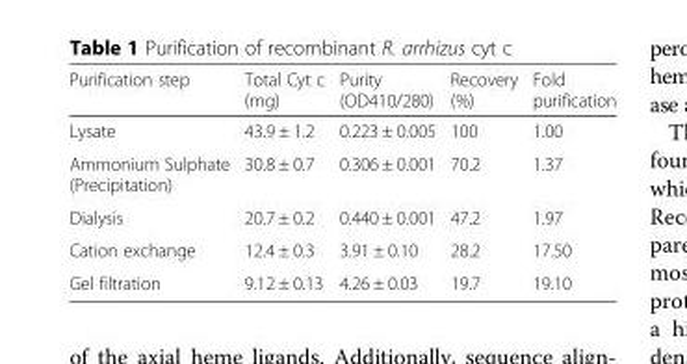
<table><thead><tr><td>Purification step</td><td>Total Cyt c (mg)</td><td>Purity (OD410/280)</td><td>Recovery (%)</td><td>Fold purification</td></tr></thead><tbody><tr><td>Lysate</td><td>43.9 ± 1.2</td><td>0.223 ± 0.005</td><td>100</td><td>1.00</td></tr><tr><td>Ammonium Sulphate (Precipitation)</td><td>30.8 ± 0.7</td><td>0.306 ± 0.001</td><td>70.2</td><td>1.37</td></tr><tr><td>Dialysis</td><td>20.7 ± 0.2</td><td>0.440 ± 0.001</td><td>47.2</td><td>1.97</td></tr><tr><td>Cation exchange</td><td>12.4 ± 0.3</td><td>3.91 ± 0.10</td><td>28.2</td><td>17.50</td></tr><tr><td>Gel filtration</td><td>9.12 ± 0.13</td><td>4.26 ± 0.03</td><td>19.7</td><td>19.10</td></tr></tbody></table>